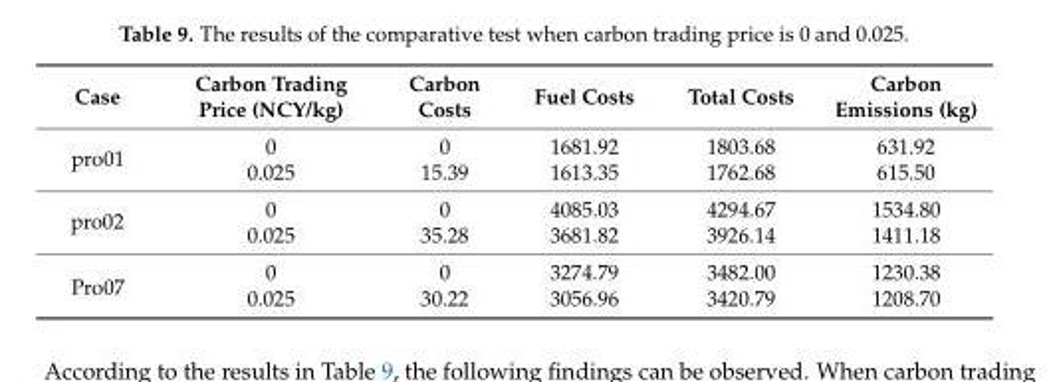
<table><thead><tr><td>Case</td><td>Carbon Trading Price (NCY/kg)</td><td>Carbon Costs</td><td>Fuel Costs</td><td>Total Costs</td><td>Carbon Emissions (kg)</td></tr></thead><tbody><tr><td rowspan="2">pro01</td><td>0</td><td>0</td><td>1681.92</td><td>1803.68</td><td>631.92</td></tr><tr><td>0.025</td><td>15.39</td><td>1613.35</td><td>1762.68</td><td>615.50</td></tr><tr><td rowspan="2">pro02</td><td>0</td><td>0</td><td>4085.03</td><td>4294.67</td><td>1534.80</td></tr><tr><td>0.025</td><td>35.28</td><td>3681.82</td><td>3926.14</td><td>1411.18</td></tr><tr><td rowspan="2">Pro07</td><td>0</td><td>0</td><td>3274.79</td><td>3482.00</td><td>1230.38</td></tr><tr><td>0.025</td><td>30.22</td><td>3056.96</td><td>3420.79</td><td>1208.70</td></tr></tbody></table>